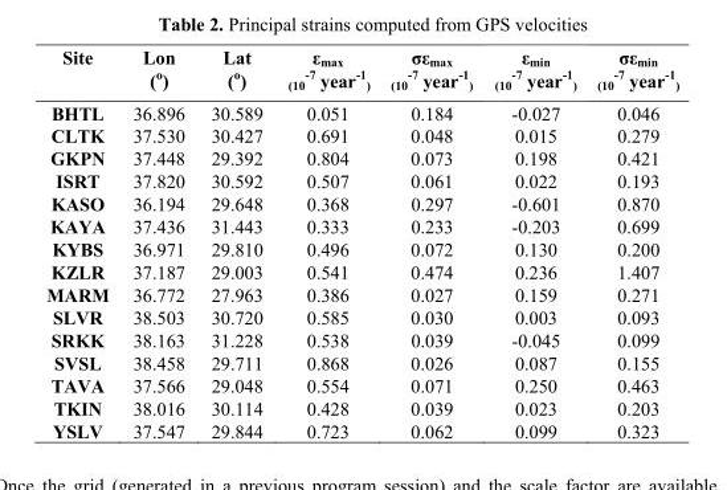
<table><thead><tr><td>Site</td><td>Lon (°)</td><td>Lat (°)</td><td>ε<sub>max</sub> (10 <sup>-7</sup> year<sup>-1</sup> )</td><td>σε<sub>max</sub> (10 <sup>-7</sup> year<sup>-1</sup> )</td><td>ε<sub>min</sub> (10 <sup>-7</sup> year<sup>-1</sup> )</td><td>σε<sub>min</sub> (10 <sup>-7</sup> year<sup>-1</sup> )</td></tr></thead><tbody><tr><td>BHTL</td><td>36.896</td><td>30.589</td><td>0.051</td><td>0.184</td><td>-0.027</td><td>0.046</td></tr><tr><td>CLTK</td><td>37.530</td><td>30.427</td><td>0.691</td><td>0.048</td><td>0.015</td><td>0.279</td></tr><tr><td>GKPN</td><td>37.448</td><td>29.392</td><td>0.804</td><td>0.073</td><td>0.198</td><td>0.421</td></tr><tr><td>ISRT</td><td>37.820</td><td>30.592</td><td>0.507</td><td>0.061</td><td>0.022</td><td>0.193</td></tr><tr><td>KASO</td><td>36.194</td><td>29.648</td><td>0.368</td><td>0.297</td><td>-0.601</td><td>0.870</td></tr><tr><td>KAYA</td><td>37.436</td><td>31.443</td><td>0.333</td><td>0.233</td><td>-0.203</td><td>0.699</td></tr><tr><td>KYBS</td><td>36.971</td><td>29.810</td><td>0.496</td><td>0.072</td><td>0.130</td><td>0.200</td></tr><tr><td>KZLR</td><td>37.187</td><td>29.003</td><td>0.541</td><td>0.474</td><td>0.236</td><td>1.407</td></tr><tr><td>MARM</td><td>36.772</td><td>27.963</td><td>0.386</td><td>0.027</td><td>0.159</td><td>0.271</td></tr><tr><td>SLVR</td><td>38.503</td><td>30.720</td><td>0.585</td><td>0.030</td><td>0.003</td><td>0.093</td></tr><tr><td>SRKK</td><td>38.163</td><td>31.228</td><td>0.538</td><td>0.039</td><td>-0.045</td><td>0.099</td></tr><tr><td>SVSL</td><td>38.458</td><td>29.711</td><td>0.868</td><td>0.026</td><td>0.087</td><td>0.155</td></tr><tr><td>TAVA</td><td>37.566</td><td>29.048</td><td>0.554</td><td>0.071</td><td>0.250</td><td>0.463</td></tr><tr><td>TKIN</td><td>38.016</td><td>30.114</td><td>0.428</td><td>0.039</td><td>0.023</td><td>0.203</td></tr><tr><td>YSLV</td><td>37.547</td><td>29.844</td><td>0.723</td><td>0.062</td><td>0.099</td><td>0.323</td></tr></tbody></table>